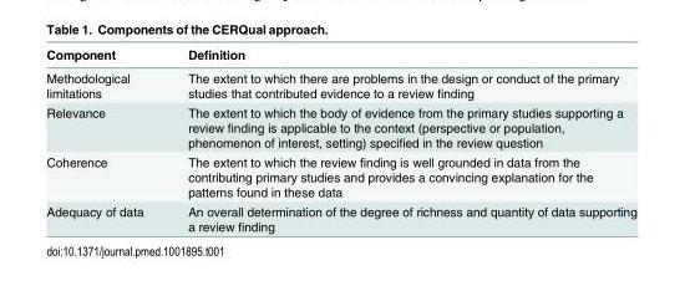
<table><thead><tr><td>Component</td><td>Definition</td></tr></thead><tbody><tr><td>Methodological limitations</td><td>The extent to which there are problems in the design or conduct of the primary studies that contributed evidence to a review finding</td></tr><tr><td>Relevance</td><td>The extent to which the body of evidence from the primary studies supporting a review finding is applicable to the context (perspective or population, phenomenon of interest, setting) specified in the review question</td></tr><tr><td>Coherence</td><td>The extent to which the review finding is well grounded in data from the contributing primary studies and provides a convincing explanation for the patterns found in these data</td></tr><tr><td>Adequacy of data</td><td>An overall determination of the degree of richness and quantity of data supporting a review finding</td></tr></tbody></table>